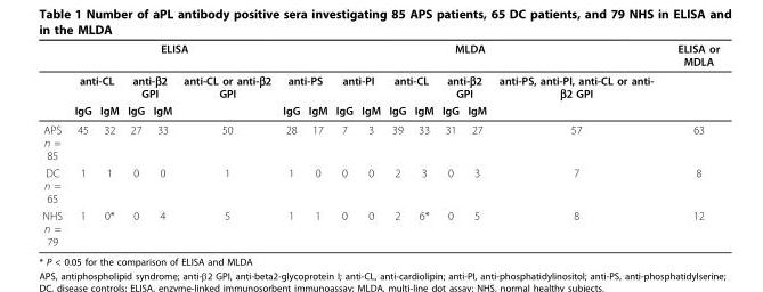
<table><thead><tr><td rowspan="3"></td><td colspan="5">ELISA</td><td colspan="9">MLDA</td><td rowspan="3">ELISA or MDLA</td></tr><tr><td colspan="2">anti-CL</td><td colspan="2">anti-β2 GPI</td><td rowspan="2">anti-CL or anti-β2 GPI</td><td colspan="2">anti-PS</td><td colspan="2">anti-PI</td><td colspan="2">anti-CL</td><td colspan="2">anti-β2 GPI</td><td rowspan="2">anti-PS, anti-PI, anti-CL or anti- β2 GPI</td></tr><tr><td>IgG</td><td>IgM</td><td>IgG</td><td>IgM</td><td>IgG</td><td>IgM</td><td>IgG</td><td>IgM</td><td>IgG</td><td>IgM</td><td>IgG</td><td>IgM</td></tr></thead><tbody><tr><td>APS n = 85</td><td>45</td><td>32</td><td>27</td><td>33</td><td>50</td><td>28</td><td>17</td><td>7</td><td>3</td><td>39</td><td>33</td><td>31</td><td>27</td><td>57</td><td>63</td></tr><tr><td>DC n = 65</td><td>1</td><td>1</td><td>0</td><td>0</td><td>1</td><td>1</td><td>0</td><td>0</td><td>0</td><td>2</td><td>3</td><td>0</td><td>3</td><td>7</td><td>8</td></tr><tr><td>NHS n = 79</td><td>1</td><td>0*</td><td>0</td><td>4</td><td>5</td><td>1</td><td>1</td><td>0</td><td>0</td><td>2</td><td>6*</td><td>0</td><td>5</td><td>8</td><td>12</td></tr></tbody></table>